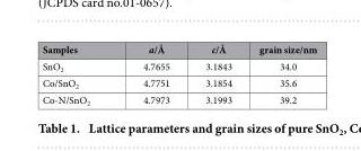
<table><thead><tr><td>Samples</td><td>a/Å</td><td>c/Å</td><td>grain size/nm</td></tr></thead><tbody><tr><td>SnO<sub>2</sub></td><td>4.7655</td><td>3.1843</td><td>34.0</td></tr><tr><td>Co/SnO<sub>2</sub></td><td>4.7751</td><td>3.1854</td><td>35.6</td></tr><tr><td>Co-N/SnO<sub>2</sub></td><td>4.7973</td><td>3.1993</td><td>39.2</td></tr></tbody></table>